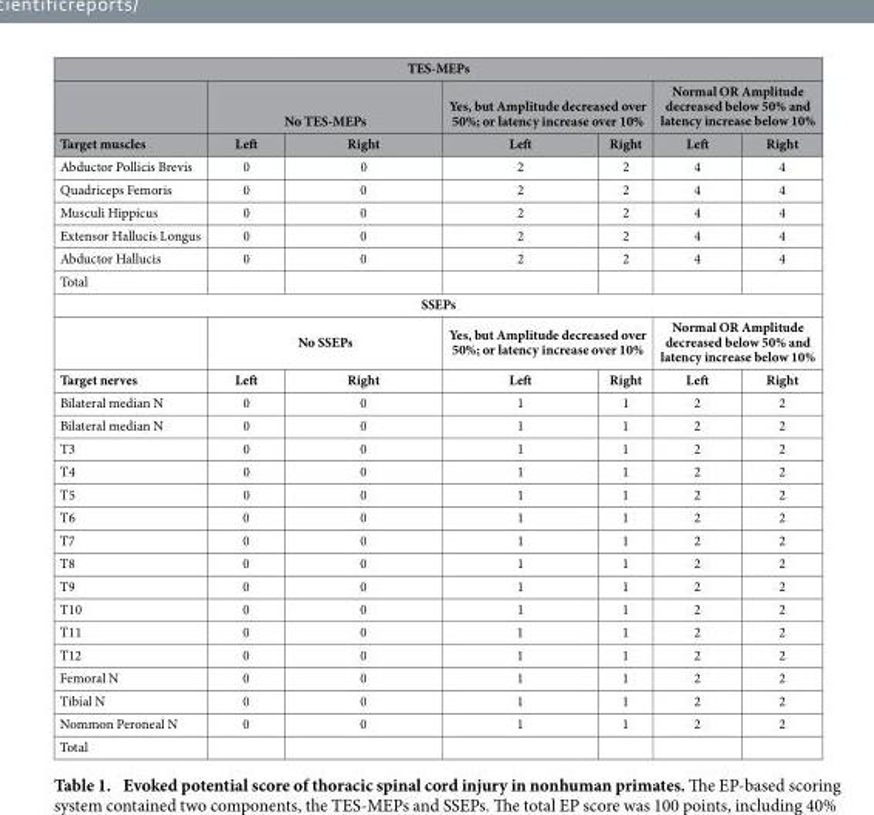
<table><thead><tr><td colspan="7">TES-MEPs</td></tr><tr><td rowspan="2">Target muscles</td><td colspan="2">No TES-MEPs</td><td colspan="2">Yes, but Amplitude decreased over 50%; or latency increase over 10%</td><td colspan="2">Normal OR Amplitude decreased below 50% and latency increase below 10%</td></tr><tr><td>Left</td><td>Right</td><td>Left</td><td>Right</td><td>Left</td><td>Right</td></tr></thead><tbody><tr><td>Abductor Pollicis Brevis</td><td>0</td><td>0</td><td>2</td><td>2</td><td>4</td><td>4</td></tr><tr><td>Quadriceps Femoris</td><td>0</td><td>0</td><td>2</td><td>2</td><td>4</td><td>4</td></tr><tr><td>Musculi Hippicus</td><td>0</td><td>0</td><td>2</td><td>2</td><td>4</td><td>4</td></tr><tr><td>Extensor Hallucis Longus</td><td>0</td><td>0</td><td>2</td><td>2</td><td>4</td><td>4</td></tr><tr><td>Abductor Hallucis</td><td>0</td><td>0</td><td>2</td><td>2</td><td>4</td><td>4</td></tr><tr><td colspan="7">Total</td></tr><tr><td colspan="7">SSEPs</td></tr><tr><td></td><td colspan="2">No SSEPs</td><td colspan="2">Yes, but Amplitude decreased over 50%; or latency increase over 10%</td><td colspan="2">Normal OR Amplitude decreased below 50% and latency increase below 10%</td></tr><tr><td>Target nerves</td><td>Left</td><td>Right</td><td>Left</td><td>Right</td><td>Left</td><td>Right</td></tr><tr><td>Bilateral median N</td><td>0</td><td>0</td><td>1</td><td>1</td><td>2</td><td>2</td></tr><tr><td>Bilateral median N</td><td>0</td><td>0</td><td>1</td><td>1</td><td>2</td><td>2</td></tr><tr><td>T3</td><td>0</td><td>0</td><td>1</td><td>1</td><td>2</td><td>2</td></tr><tr><td>T4</td><td>0</td><td>0</td><td>1</td><td>1</td><td>2</td><td>2</td></tr><tr><td>T5</td><td>0</td><td>0</td><td>1</td><td>1</td><td>2</td><td>2</td></tr><tr><td>T6</td><td>0</td><td>0</td><td>1</td><td>1</td><td>2</td><td>2</td></tr><tr><td>T7</td><td>0</td><td>0</td><td>1</td><td>1</td><td>2</td><td>2</td></tr><tr><td>T8</td><td>0</td><td>0</td><td>1</td><td>1</td><td>2</td><td>2</td></tr><tr><td>T9</td><td>0</td><td>0</td><td>1</td><td>1</td><td>2</td><td>2</td></tr><tr><td>T10</td><td>0</td><td>0</td><td>1</td><td>1</td><td>2</td><td>2</td></tr><tr><td>T11</td><td>0</td><td>0</td><td>1</td><td>1</td><td>2</td><td>2</td></tr><tr><td>T12</td><td>0</td><td>0</td><td>1</td><td>1</td><td>2</td><td>2</td></tr><tr><td>Femoral N</td><td>0</td><td>0</td><td>1</td><td>1</td><td>2</td><td>2</td></tr><tr><td>Tibial N</td><td>0</td><td>0</td><td>1</td><td>1</td><td>2</td><td>2</td></tr><tr><td>Nommon Peroneal N</td><td>0</td><td>0</td><td>1</td><td>1</td><td>2</td><td>2</td></tr><tr><td>Total</td><td></td><td></td><td></td><td></td><td></td><td></td></tr></tbody></table>